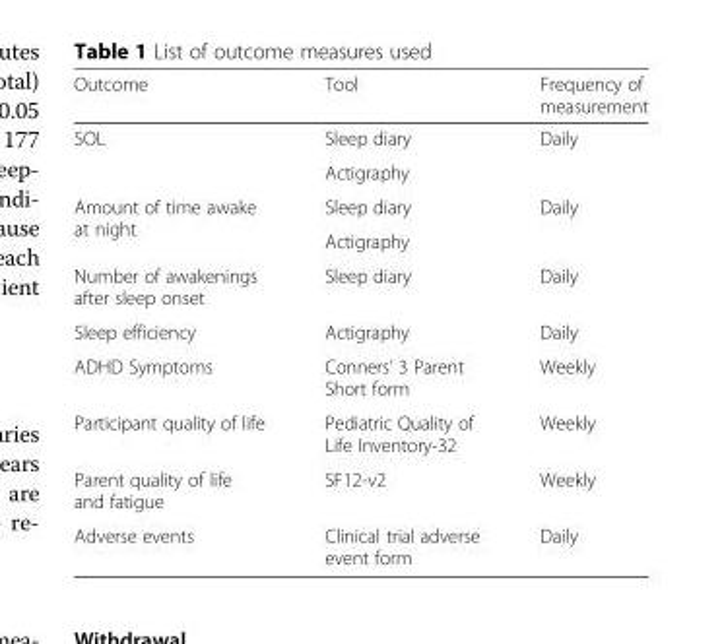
<table><thead><tr><td>Outcome</td><td>Tool</td><td>Frequency of measurement</td></tr></thead><tbody><tr><td rowspan="2">SOL</td><td>Sleep diary</td><td rowspan="2">Daily</td></tr><tr><td>Actigraphy</td></tr><tr><td rowspan="2">Amount of time awake at night</td><td>Sleep diary</td><td rowspan="2">Daily</td></tr><tr><td>Actigraphy</td></tr><tr><td>Number of awakenings after sleep onset</td><td>Sleep diary</td><td>Daily</td></tr><tr><td>Sleep efficiency</td><td>Actigraphy</td><td>Daily</td></tr><tr><td>ADHD Symptoms</td><td>Conners’ 3 Parent Short form</td><td>Weekly</td></tr><tr><td>Participant quality of life</td><td>Pediatric Quality of Life Inventory-32</td><td>Weekly</td></tr><tr><td>Parent quality of life and fatigue</td><td>SF12-v2</td><td>Weekly</td></tr><tr><td>Adverse events</td><td>Clinical trial adverse event form</td><td>Daily</td></tr></tbody></table>